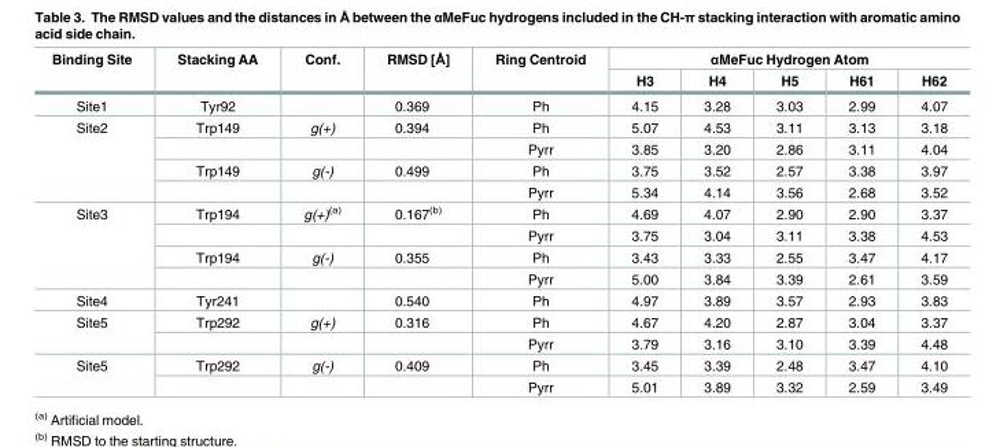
<table><thead><tr><td rowspan="2">Binding Site</td><td rowspan="2">Stacking AA</td><td rowspan="2">Conf.</td><td rowspan="2">RMSD [Å]</td><td rowspan="2">Ring Centroid</td><td colspan="5">αMeFuc Hydrogen Atom</td></tr><tr><td>H3</td><td>H4</td><td>H5</td><td>H61</td><td>H62</td></tr></thead><tbody><tr><td>Site1</td><td>Tyr92</td><td></td><td>0.369</td><td>Ph</td><td>4.15</td><td>3.28</td><td>3.03</td><td>2.99</td><td>4.07</td></tr><tr><td rowspan="4">Site2</td><td>Trp149</td><td>g(+)</td><td>0.394</td><td>Ph</td><td>5.07</td><td>4.53</td><td>3.11</td><td>3.13</td><td>3.18</td></tr><tr><td></td><td></td><td></td><td>Pyrr</td><td>3.85</td><td>3.20</td><td>2.86</td><td>3.11</td><td>4.04</td></tr><tr><td>Trp149</td><td>g(-)</td><td>0.499</td><td>Ph</td><td>3.75</td><td>3.52</td><td>2.57</td><td>3.38</td><td>3.97</td></tr><tr><td></td><td></td><td></td><td>Pyrr</td><td>5.34</td><td>4.14</td><td>3.56</td><td>2.68</td><td>3.52</td></tr><tr><td rowspan="4">Site3</td><td>Trp194</td><td>g(+)<sup>(a)</sup></td><td>0.167<sup>(b)</sup></td><td>Ph</td><td>4.69</td><td>4.07</td><td>2.90</td><td>2.90</td><td>3.37</td></tr><tr><td></td><td></td><td></td><td>Pyrr</td><td>3.75</td><td>3.04</td><td>3.11</td><td>3.38</td><td>4.53</td></tr><tr><td>Trp194</td><td>g(-)</td><td>0.355</td><td>Ph</td><td>3.43</td><td>3.33</td><td>2.55</td><td>3.47</td><td>4.17</td></tr><tr><td></td><td></td><td></td><td>Pyrr</td><td>5.00</td><td>3.84</td><td>3.39</td><td>2.61</td><td>3.59</td></tr><tr><td>Site4</td><td>Tyr241</td><td></td><td>0.540</td><td>Ph</td><td>4.97</td><td>3.89</td><td>3.57</td><td>2.93</td><td>3.83</td></tr><tr><td rowspan="2">Site5</td><td>Trp292</td><td>g(+)</td><td>0.316</td><td>Ph</td><td>4.67</td><td>4.20</td><td>2.87</td><td>3.04</td><td>3.37</td></tr><tr><td></td><td></td><td></td><td>Pyrr</td><td>3.79</td><td>3.16</td><td>3.10</td><td>3.39</td><td>4.48</td></tr><tr><td rowspan="2">Site5</td><td>Trp292</td><td>g(-)</td><td>0.409</td><td>Ph</td><td>3.45</td><td>3.39</td><td>2.48</td><td>3.47</td><td>4.10</td></tr><tr><td></td><td></td><td></td><td>Pyrr</td><td>5.01</td><td>3.89</td><td>3.32</td><td>2.59</td><td>3.49</td></tr></tbody></table>